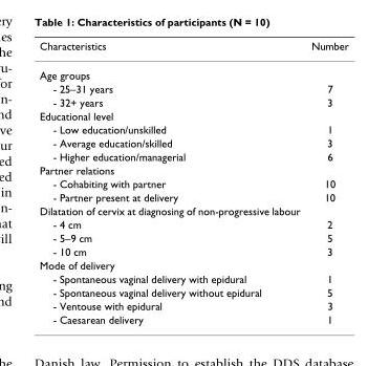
<table><thead><tr><td>Characteristics</td><td>Number</td></tr></thead><tbody><tr><td colspan="2">Age groups</td></tr><tr><td>- 25–31 years</td><td>7</td></tr><tr><td>- 32+ years</td><td>3</td></tr><tr><td colspan="2">Educational level</td></tr><tr><td>- Low education/unskilled</td><td>1</td></tr><tr><td>- Average education/skilled</td><td>3</td></tr><tr><td>- Higher education/managerial</td><td>6</td></tr><tr><td colspan="2">Partner relations</td></tr><tr><td>- Cohabiting with partner</td><td>10</td></tr><tr><td>- Partner present at delivery</td><td>10</td></tr><tr><td colspan="2">Dilatation of cervix at diagnosing of non-progressive labour</td></tr><tr><td>- 4 cm</td><td>2</td></tr><tr><td>- 5–9 cm</td><td>5</td></tr><tr><td>- 10 cm</td><td>3</td></tr><tr><td colspan="2">Mode of delivery</td></tr><tr><td>- Spontaneous vaginal delivery with epidural</td><td>1</td></tr><tr><td>- Spontaneous vaginal delivery without epidural</td><td>5</td></tr><tr><td>- Ventouse with epidural</td><td>3</td></tr><tr><td>- Caesarean delivery</td><td>1</td></tr></tbody></table>